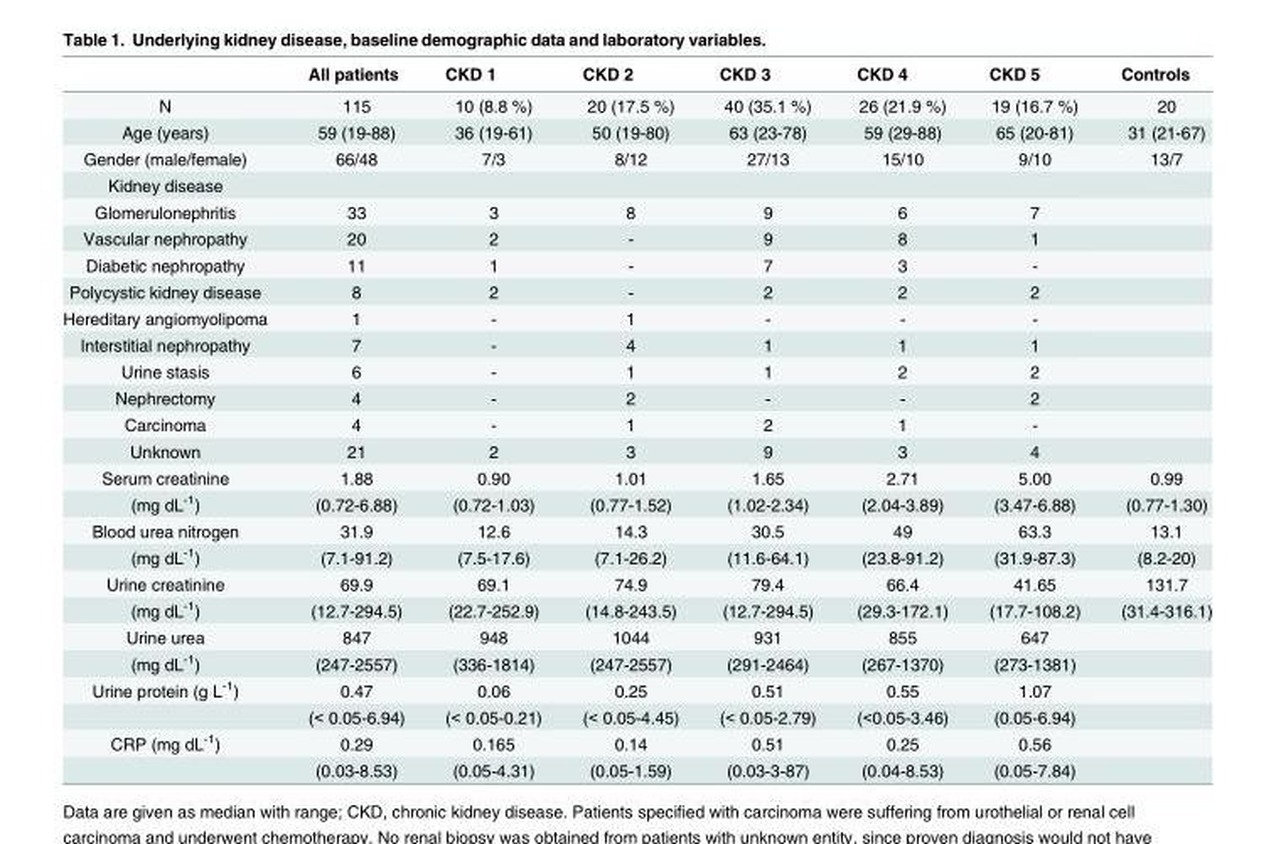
<table><thead><tr><td></td><td>All patients</td><td>CKD 1</td><td>CKD 2</td><td>CKD 3</td><td>CKD 4</td><td>CKD 5</td><td>Controls</td></tr></thead><tbody><tr><td>N</td><td>115</td><td>10 (8.8 %)</td><td>20 (17.5 %)</td><td>40 (35.1 %)</td><td>26 (21.9 %)</td><td>19 (16.7 %)</td><td>20</td></tr><tr><td>Age (years)</td><td>59 (19-88)</td><td>36 (19-61)</td><td>50 (19-80)</td><td>63 (23-78)</td><td>59 (29-88)</td><td>65 (20-81)</td><td>31 (21-67)</td></tr><tr><td>Gender (male/female)</td><td>66/48</td><td>7/3</td><td>8/12</td><td>27/13</td><td>15/10</td><td>9/10</td><td>13/7</td></tr><tr><td colspan="8">Kidney disease</td></tr><tr><td>Glomerulonephritis</td><td>33</td><td>3</td><td>8</td><td>9</td><td>6</td><td>7</td><td></td></tr><tr><td>Vascular nephropathy</td><td>20</td><td>2</td><td>-</td><td>9</td><td>8</td><td>1</td><td></td></tr><tr><td>Diabetic nephropathy</td><td>11</td><td>1</td><td>-</td><td>7</td><td>3</td><td>-</td><td></td></tr><tr><td>Polycystic kidney disease</td><td>8</td><td>2</td><td>-</td><td>2</td><td>2</td><td>2</td><td></td></tr><tr><td>Hereditary angiomyolipoma</td><td>1</td><td>-</td><td>1</td><td>-</td><td>-</td><td>-</td><td></td></tr><tr><td>Interstitial nephropathy</td><td>7</td><td>-</td><td>4</td><td>1</td><td>1</td><td>1</td><td></td></tr><tr><td>Urine stasis</td><td>6</td><td>-</td><td>1</td><td>1</td><td>2</td><td>2</td><td></td></tr><tr><td>Nephrectomy</td><td>4</td><td>-</td><td>2</td><td>-</td><td>-</td><td>2</td><td></td></tr><tr><td>Carcinoma</td><td>4</td><td>-</td><td>1</td><td>2</td><td>1</td><td>-</td><td></td></tr><tr><td>Unknown</td><td>21</td><td>2</td><td>3</td><td>9</td><td>3</td><td>4</td><td></td></tr><tr><td>Serum creatinine</td><td>1.88</td><td>0.90</td><td>1.01</td><td>1.65</td><td>2.71</td><td>5.00</td><td>0.99</td></tr><tr><td>(mg dL<sup>-1</sup>)</td><td>(0.72-6.88)</td><td>(0.72-1.03)</td><td>(0.77-1.52)</td><td>(1.02-2.34)</td><td>(2.04-3.89)</td><td>(3.47-6.88)</td><td>(0.77-1.30)</td></tr><tr><td>Blood urea nitrogen</td><td>31.9</td><td>12.6</td><td>14.3</td><td>30.5</td><td>49</td><td>63.3</td><td>13.1</td></tr><tr><td>(mg dL<sup>-1</sup>)</td><td>(7.1-91.2)</td><td>(7.5-17.6)</td><td>(7.1-26.2)</td><td>(11.6-64.1)</td><td>(23.8-91.2)</td><td>(31.9-87.3)</td><td>(8.2-20)</td></tr><tr><td>Urine creatinine</td><td>69.9</td><td>69.1</td><td>74.9</td><td>79.4</td><td>66.4</td><td>41.65</td><td>131.7</td></tr><tr><td>(mg dL<sup>-1</sup>)</td><td>(12.7-294.5)</td><td>(22.7-252.9)</td><td>(14.8-243.5)</td><td>(12.7-294.5)</td><td>(29.3-172.1)</td><td>(17.7-108.2)</td><td>(31.4-316.1)</td></tr><tr><td>Urine urea</td><td>847</td><td>948</td><td>1044</td><td>931</td><td>855</td><td>647</td><td></td></tr><tr><td>(mg dL<sup>-1</sup>)</td><td>(247-2557)</td><td>(336-1814)</td><td>(247-2557)</td><td>(291-2464)</td><td>(267-1370)</td><td>(273-1381)</td><td></td></tr><tr><td rowspan="2">Urine protein (g L<sup>-1</sup>)</td><td>0.47</td><td>0.06</td><td>0.25</td><td>0.51</td><td>0.55</td><td>1.07</td><td></td></tr><tr><td>(&lt; 0.05-6.94)</td><td>(&lt; 0.05-0.21)</td><td>(&lt; 0.05-4.45)</td><td>(&lt; 0.05-2.79)</td><td>(&lt;0.05-3.46)</td><td>(0.05-6.94)</td><td></td></tr><tr><td rowspan="2">CRP (mg dL<sup>-1</sup>)</td><td>0.29</td><td>0.165</td><td>0.14</td><td>0.51</td><td>0.25</td><td>0.56</td><td></td></tr><tr><td>(0.03-8.53)</td><td>(0.05-4.31)</td><td>(0.05-1.59)</td><td>(0.03-3-87)</td><td>(0.04-8.53)</td><td>(0.05-7.84)</td><td></td></tr></tbody></table>